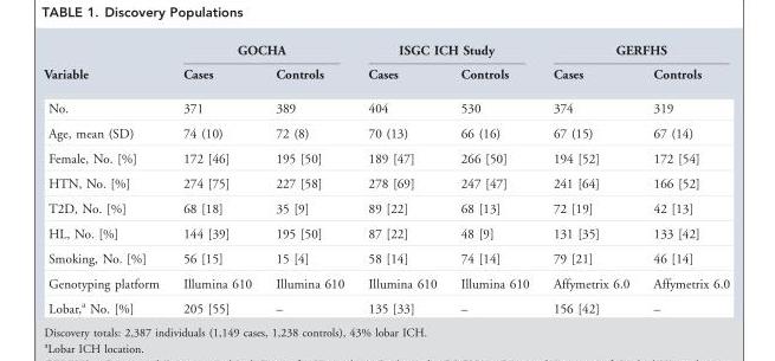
<table><thead><tr><td rowspan="2">Variable</td><td colspan="2">GOCHA</td><td colspan="2">ISGC ICH Study</td><td colspan="2">GERFHS</td></tr><tr><td>Cases</td><td>Controls</td><td>Cases</td><td>Controls</td><td>Cases</td><td>Controls</td></tr></thead><tbody><tr><td>No.</td><td>371</td><td>389</td><td>404</td><td>530</td><td>374</td><td>319</td></tr><tr><td>Age, mean (SD)</td><td>74 (10)</td><td>72 (8)</td><td>70 (13)</td><td>66 (16)</td><td>67 (15)</td><td>67 (14)</td></tr><tr><td>Female, No. [%]</td><td>172 [46]</td><td>195 [50]</td><td>189 [47]</td><td>266 [50]</td><td>194 [52]</td><td>172 [54]</td></tr><tr><td>HTN, No. [%]</td><td>274 [75]</td><td>227 [58]</td><td>278 [69]</td><td>247 [47]</td><td>241 [64]</td><td>166 [52]</td></tr><tr><td>T2D, No. [%]</td><td>68 [18]</td><td>35 [9]</td><td>89 [22]</td><td>68 [13]</td><td>72 [19]</td><td>42 [13]</td></tr><tr><td>HL, No. [%]</td><td>144 [39]</td><td>195 [50]</td><td>87 [22]</td><td>48 [9]</td><td>131 [35]</td><td>133 [42]</td></tr><tr><td>Smoking, No. [%]</td><td>56 [15]</td><td>15 [4]</td><td>58 [14]</td><td>74 [14]</td><td>79 [21]</td><td>46 [14]</td></tr><tr><td>Genotyping platform</td><td>Illumina 610</td><td>Illumina 610</td><td>Illumina 610</td><td>Illumina 610</td><td>Affymetrix 6.0</td><td>Affymetrix 6.0</td></tr><tr><td>Lobar,<sup>a</sup> No. [%]</td><td>205 [55]</td><td>–</td><td>135 [33]</td><td>–</td><td>156 [42]</td><td>–</td></tr></tbody></table>